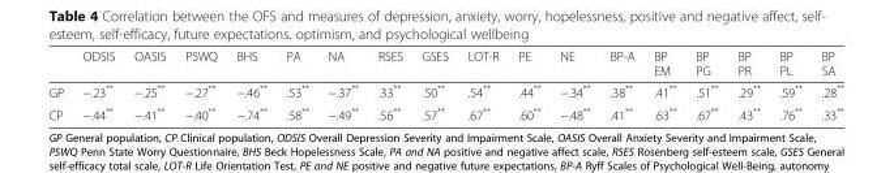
<table><thead><tr><td></td><td>ODSIS</td><td>OASIS</td><td>PSWQ</td><td>BHS</td><td>PA</td><td>NA</td><td>RSES</td><td>GSES</td><td>LOT-R</td><td>PE</td><td>NE</td><td>BP-A</td><td>BP EM</td><td>BP PG</td><td>BP PR</td><td>BP PL</td><td>BP SA</td></tr></thead><tbody><tr><td>GP</td><td>−.23**</td><td>−.25**</td><td>−.27**</td><td>−.46**</td><td>.53**</td><td>−.37**</td><td>.33**</td><td>.50**</td><td>.54**</td><td>.44**</td><td>−.34**</td><td>.38**</td><td>.41**</td><td>.51**</td><td>.29**</td><td>.59**</td><td>.28**</td></tr><tr><td>CP</td><td>−.44**</td><td>−.41**</td><td>−.40**</td><td>−.74**</td><td>.58**</td><td>−.49**</td><td>.56**</td><td>.57**</td><td>.67**</td><td>.60**</td><td>−.48**</td><td>.41**</td><td>.63**</td><td>.67**</td><td>.43**</td><td>.76**</td><td>.33**</td></tr></tbody></table>